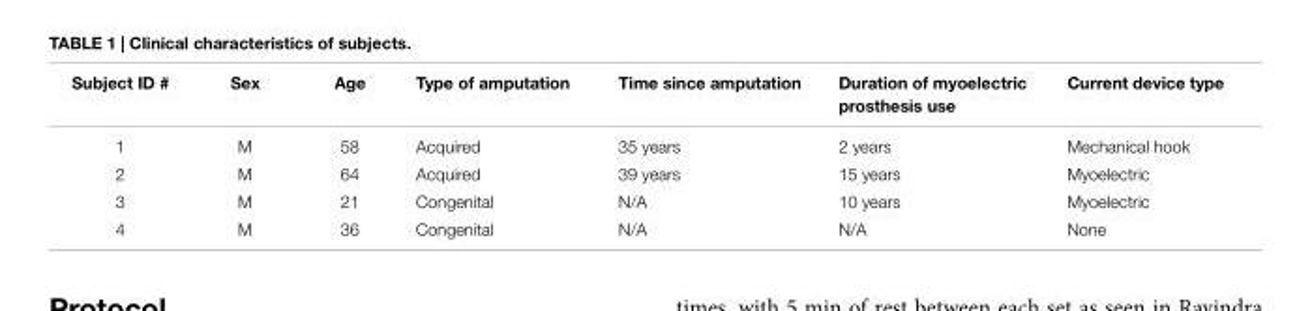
<table><thead><tr><td>subject iD #</td><td>sex</td><td>age</td><td>Type of amputation</td><td>Time since amputation</td><td>Duration of myoelectric prosthesis use</td><td>current device type</td></tr></thead><tbody><tr><td>1</td><td>M</td><td>58</td><td>Acquired</td><td>35 years</td><td>2 years</td><td>Mechanical hook</td></tr><tr><td>2</td><td>M</td><td>64</td><td>Acquired</td><td>39 years</td><td>15 years</td><td>Myoelectric</td></tr><tr><td>3</td><td>M</td><td>21</td><td>Congenital</td><td>N/A</td><td>10 years</td><td>Myoelectric</td></tr><tr><td>4</td><td>M</td><td>36</td><td>Congenital</td><td>N/A</td><td>N/A</td><td>None</td></tr></tbody></table>